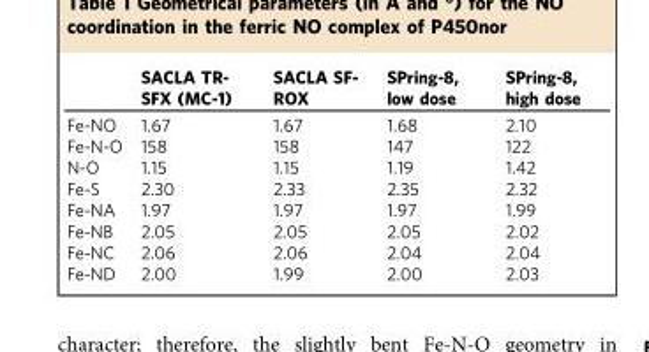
<table><thead><tr><td></td><td>SACLA TR- SFX (MC-1)</td><td>SACLA SF- ROX</td><td>SPring-8, low dose</td><td>SPring-8, high dose</td></tr></thead><tbody><tr><td>Fe-NO</td><td>1.67</td><td>1.67</td><td>1.68</td><td>2.10</td></tr><tr><td>Fe-N-O</td><td>158</td><td>158</td><td>147</td><td>122</td></tr><tr><td>N-O</td><td>1.15</td><td>1.15</td><td>1.19</td><td>1.42</td></tr><tr><td>Fe-S</td><td>2.30</td><td>2.33</td><td>2.35</td><td>2.32</td></tr><tr><td>Fe-NA</td><td>1.97</td><td>1.97</td><td>1.97</td><td>1.99</td></tr><tr><td>Fe-NB</td><td>2.05</td><td>2.05</td><td>2.05</td><td>2.02</td></tr><tr><td>Fe-NC</td><td>2.06</td><td>2.06</td><td>2.04</td><td>2.04</td></tr><tr><td>Fe-ND</td><td>2.00</td><td>1.99</td><td>2.00</td><td>2.03</td></tr></tbody></table>